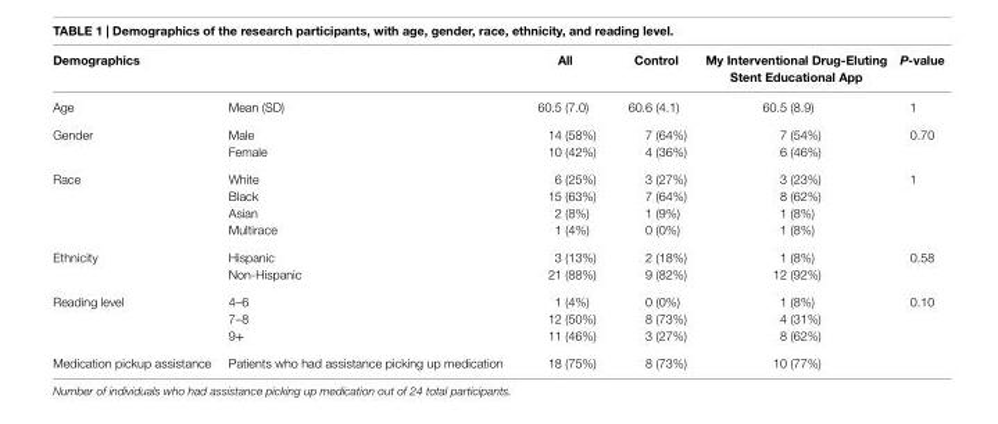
<table><thead><tr><td>Demographics</td><td></td><td>all</td><td>control</td><td>My interventional Drug-eluting stent educational app</td><td>P-value</td></tr></thead><tbody><tr><td>Age</td><td>Mean (SD)</td><td>60.5 (7.0)</td><td>60.6 (4.1)</td><td>60.5 (8.9)</td><td>1</td></tr><tr><td rowspan="2">Gender</td><td>Male</td><td>14 (58%)</td><td>7 (64%)</td><td>7 (54%)</td><td rowspan="2">0.70</td></tr><tr><td>Female</td><td>10 (42%)</td><td>4 (36%)</td><td>6 (46%)</td></tr><tr><td rowspan="4">Race</td><td>White</td><td>6 (25%)</td><td>3 (27%)</td><td>3 (23%)</td><td rowspan="4">1</td></tr><tr><td>Black</td><td>15 (63%)</td><td>7 (64%)</td><td>8 (62%)</td></tr><tr><td>Asian</td><td>2 (8%)</td><td>1 (9%)</td><td>1 (8%)</td></tr><tr><td>Multirace</td><td>1 (4%)</td><td>0 (0%)</td><td>1 (8%)</td></tr><tr><td rowspan="2">Ethnicity</td><td>Hispanic</td><td>3 (13%)</td><td>2 (18%)</td><td>1 (8%)</td><td rowspan="2">0.58</td></tr><tr><td>Non-Hispanic</td><td>21 (88%)</td><td>9 (82%)</td><td>12 (92%)</td></tr><tr><td rowspan="3">Reading level</td><td>4–6</td><td>1 (4%)</td><td>0 (0%)</td><td>1 (8%)</td><td rowspan="3">0.10</td></tr><tr><td>7–8</td><td>12 (50%)</td><td>8 (73%)</td><td>4 (31%)</td></tr><tr><td>9+</td><td>11 (46%)</td><td>3 (27%)</td><td>8 (62%)</td></tr><tr><td>Medication pickup assistance</td><td>Patients who had assistance picking up medication</td><td>18 (75%)</td><td>8 (73%)</td><td>10 (77%)</td><td></td></tr></tbody></table>